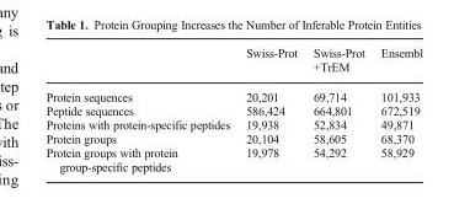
<table><thead><tr><td></td><td>Swiss-Prot</td><td>Swiss-Prot +TrEM</td><td>Ensembl</td></tr></thead><tbody><tr><td>Protein sequences</td><td>20,201</td><td>69,714</td><td>101,933</td></tr><tr><td>Peptide sequences</td><td>586,424</td><td>664,801</td><td>672,519</td></tr><tr><td>Proteins with protein-specific peptides</td><td>19,938</td><td>52,834</td><td>49,871</td></tr><tr><td>Protein groups</td><td>20,104</td><td>58,605</td><td>68,370</td></tr><tr><td>Protein groups with protein group-specific peptides</td><td>19,978</td><td>54,292</td><td>58,929</td></tr></tbody></table>